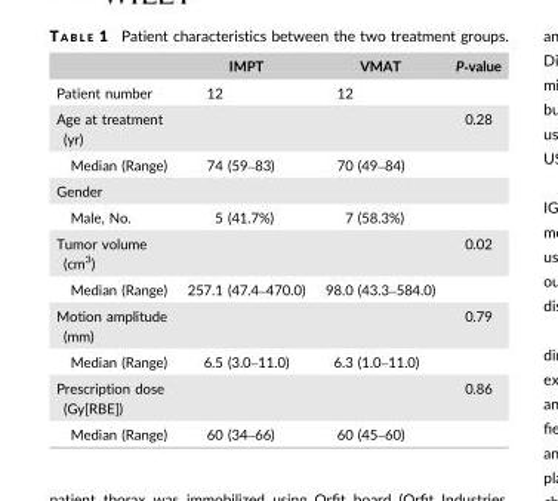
<table><thead><tr><td></td><td>IMPT</td><td>VMAT</td><td>P‐value</td></tr></thead><tbody><tr><td>Patient number</td><td>12</td><td>12</td><td></td></tr><tr><td>Age at treatment (yr)</td><td></td><td></td><td>0.28</td></tr><tr><td>Median (Range)</td><td>74 (59–83)</td><td>70 (49–84)</td><td></td></tr><tr><td colspan="4">Gender</td></tr><tr><td>Male, No.</td><td>5 (41.7%)</td><td>7 (58.3%)</td><td></td></tr><tr><td>Tumor volume (cm<sup>3</sup>)</td><td></td><td></td><td>0.02</td></tr><tr><td>Median (Range)</td><td>257.1 (47.4–470.0)</td><td>98.0 (43.3–584.0)</td><td></td></tr><tr><td>Motion amplitude (mm)</td><td></td><td></td><td>0.79</td></tr><tr><td>Median (Range)</td><td>6.5 (3.0–11.0)</td><td>6.3 (1.0–11.0)</td><td></td></tr><tr><td>Prescription dose (Gy[RBE])</td><td></td><td></td><td>0.86</td></tr><tr><td>Median (Range)</td><td>60 (34–66)</td><td>60 (45–60)</td><td></td></tr></tbody></table>